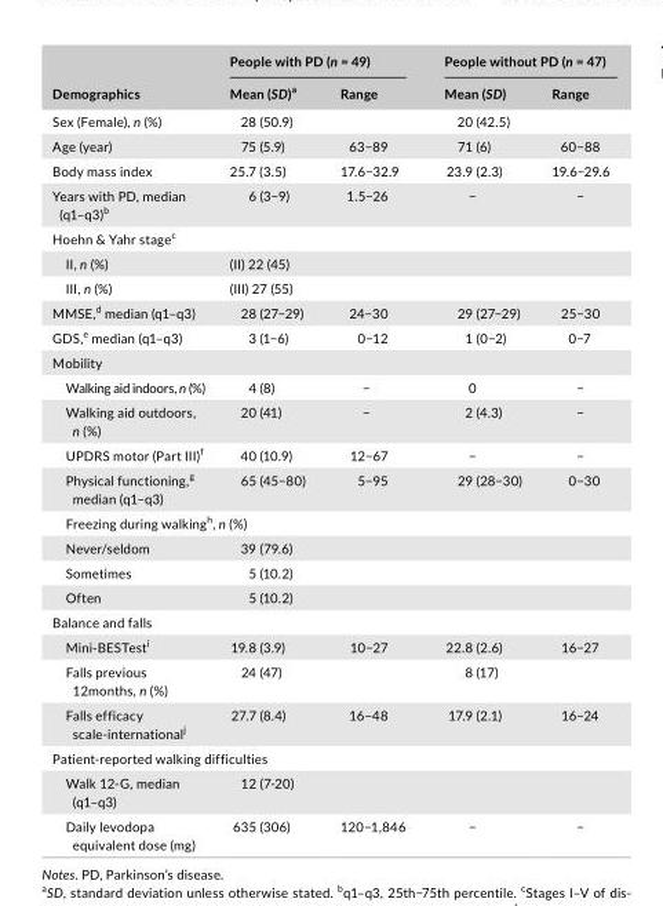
<table><thead><tr><td rowspan="2">Demographics</td><td colspan="2">People with PD (n = 49)</td><td colspan="2">People without PD (n = 47)</td></tr><tr><td>Mean (SD)<sup>a</sup></td><td>Range</td><td>Mean (SD)</td><td>Range</td></tr></thead><tbody><tr><td>Sex (Female), n (%)</td><td>28 (50.9)</td><td></td><td>20 (42.5)</td><td></td></tr><tr><td>Age (year)</td><td>75 (5.9)</td><td>63−89</td><td>71 (6)</td><td>60−88</td></tr><tr><td>Body mass index</td><td>25.7 (3.5)</td><td>17.6−32.9</td><td>23.9 (2.3)</td><td>19.6−29.6</td></tr><tr><td>Years with PD, median (q1–q3)<sup>b</sup></td><td>6 (3−9)</td><td>1.5−26</td><td>−</td><td>−</td></tr><tr><td colspan="5">Hoehn &amp; Yahr stage<sup>c</sup></td></tr><tr><td>II, n (%)</td><td colspan="2">(II) 22 (45)</td><td></td><td></td></tr><tr><td>III, n (%)</td><td colspan="2">(III) 27 (55)</td><td></td><td></td></tr><tr><td>MMSE,<sup>d</sup> median (q1–q3)</td><td>28 (27−29)</td><td>24−30</td><td>29 (27−29)</td><td>25−30</td></tr><tr><td>GDS,<sup>e</sup> median (q1–q3)</td><td>3 (1−6)</td><td>0−12</td><td>1 (0−2)</td><td>0−7</td></tr><tr><td colspan="5">Mobility</td></tr><tr><td>Walking aid indoors, n (%)</td><td>4 (8)</td><td>−</td><td>0</td><td>−</td></tr><tr><td>Walking aid outdoors, n (%)</td><td>20 (41)</td><td>−</td><td>2 (4.3)</td><td>−</td></tr><tr><td>UPDRS motor (Part III)<sup>f</sup></td><td>40 (10.9)</td><td>12−67</td><td>−</td><td>−</td></tr><tr><td>Physical functioning,<sup>g</sup> median (q1–q3)</td><td>65 (45−80)</td><td>5−95</td><td>29 (28−30)</td><td>0−30</td></tr><tr><td colspan="5">Freezing during walking<sup>h</sup>, n (%)</td></tr><tr><td>Never/seldom</td><td>39 (79.6)</td><td></td><td></td><td></td></tr><tr><td>Sometimes</td><td>5 (10.2)</td><td></td><td></td><td></td></tr><tr><td>Often</td><td>5 (10.2)</td><td></td><td></td><td></td></tr><tr><td colspan="5">Balance and falls</td></tr><tr><td>Mini- BESTest<sup>i</sup></td><td>19.8 (3.9)</td><td>10−27</td><td>22.8 (2.6)</td><td>16−27</td></tr><tr><td>Falls previous 12months, n (%)</td><td>24 (47)</td><td></td><td>8 (17)</td><td></td></tr><tr><td>Falls efficacy scale- international<sup>j</sup></td><td>27.7 (8.4)</td><td>16−48</td><td>17.9 (2.1)</td><td>16−24</td></tr><tr><td colspan="5">Patient- reported walking difficulties</td></tr><tr><td>Walk 12- G, median (q1–q3)</td><td>12 (7- 20)</td><td></td><td></td><td></td></tr><tr><td>Daily levodopa equivalent dose (mg)</td><td>635 (306)</td><td>120−1,846</td><td>−</td><td>−</td></tr></tbody></table>